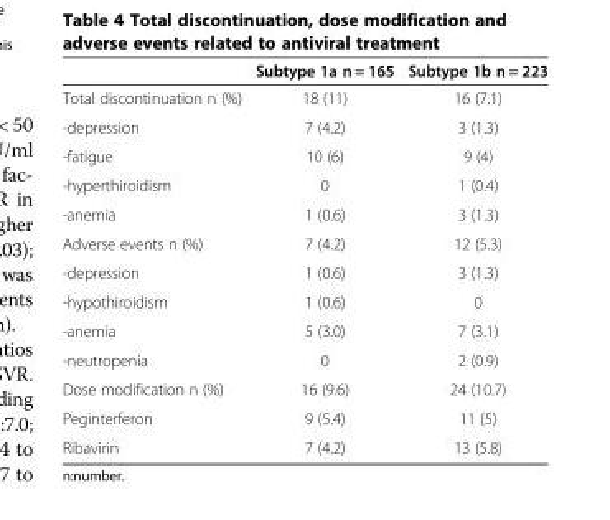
<table><thead><tr><td></td><td>Subtype 1a n = 165</td><td>Subtype 1b n = 223</td></tr></thead><tbody><tr><td>Total discontinuation n (%)</td><td>18 (11)</td><td>16 (7.1)</td></tr><tr><td>-depression</td><td>7 (4.2)</td><td>3 (1.3)</td></tr><tr><td>-fatigue</td><td>10 (6)</td><td>9 (4)</td></tr><tr><td>-hyperthiroidism</td><td>0</td><td>1 (0.4)</td></tr><tr><td>-anemia</td><td>1 (0.6)</td><td>3 (1.3)</td></tr><tr><td>Adverse events n (%)</td><td>7 (4.2)</td><td>12 (5.3)</td></tr><tr><td>-depression</td><td>1 (0.6)</td><td>3 (1.3)</td></tr><tr><td>-hypothiroidism</td><td>1 (0.6)</td><td>0</td></tr><tr><td>-anemia</td><td>5 (3.0)</td><td>7 (3.1)</td></tr><tr><td>-neutropenia</td><td>0</td><td>2 (0.9)</td></tr><tr><td>Dose modification n (%)</td><td>16 (9.6)</td><td>24 (10.7)</td></tr><tr><td>Peginterferon</td><td>9 (5.4)</td><td>11 (5)</td></tr><tr><td>Ribavirin</td><td>7 (4.2)</td><td>13 (5.8)</td></tr></tbody></table>